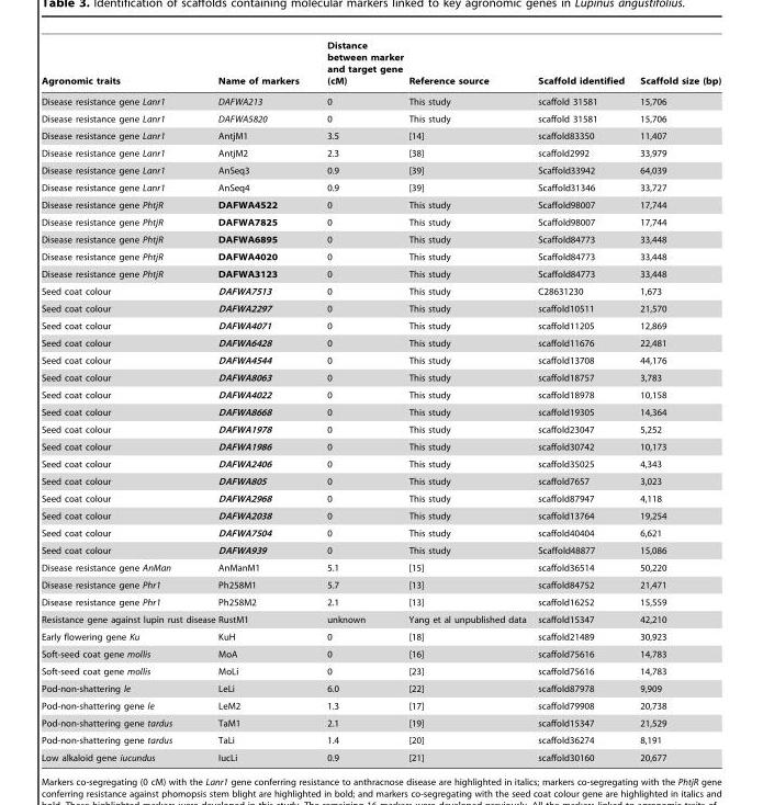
<table><thead><tr><td>Agronomic traits</td><td>Name of markers</td><td>Distance between marker and target gene (cM)</td><td>Reference source</td><td>Scaffold identified</td><td>Scaffold size (bp)</td></tr></thead><tbody><tr><td>Disease resistance gene Lanr1</td><td>DAFWA213</td><td>0</td><td>This study</td><td>scaffold 31581</td><td>15,706</td></tr><tr><td>Disease resistance gene Lanr1</td><td>DAFWA5820</td><td>0</td><td>This study</td><td>scaffold 31581</td><td>15,706</td></tr><tr><td>Disease resistance gene Lanr1</td><td>AntjM1</td><td>3.5</td><td>[14]</td><td>scaffold83350</td><td>11,407</td></tr><tr><td>Disease resistance gene Lanr1</td><td>AntjM2</td><td>2.3</td><td>[38]</td><td>scaffold2992</td><td>33,979</td></tr><tr><td>Disease resistance gene Lanr1</td><td>AnSeq3</td><td>0.9</td><td>[39]</td><td>Scaffold33942</td><td>64,039</td></tr><tr><td>Disease resistance gene Lanr1</td><td>AnSeq4</td><td>0.9</td><td>[39]</td><td>Scaffold31346</td><td>33,727</td></tr><tr><td>Disease resistance gene PhtjR</td><td>DAFWA4522</td><td>0</td><td>This study</td><td>Scaffold98007</td><td>17,744</td></tr><tr><td>Disease resistance gene PhtjR</td><td>DAFWA7825</td><td>0</td><td>This study</td><td>Scaffold98007</td><td>17,744</td></tr><tr><td>Disease resistance gene PhtjR</td><td>DAFWA6895</td><td>0</td><td>This study</td><td>Scaffold84773</td><td>33,448</td></tr><tr><td>Disease resistance gene PhtjR</td><td>DAFWA4020</td><td>0</td><td>This study</td><td>Scaffold84773</td><td>33,448</td></tr><tr><td>Disease resistance gene PhtjR</td><td>DAFWA3123</td><td>0</td><td>This study</td><td>Scaffold84773</td><td>33,448</td></tr><tr><td>Seed coat colour</td><td>DAFWA7513</td><td>0</td><td>This study</td><td>C28631230</td><td>1,673</td></tr><tr><td>Seed coat colour</td><td>DAFWA2297</td><td>0</td><td>This study</td><td>scaffold10511</td><td>21,570</td></tr><tr><td>Seed coat colour</td><td>DAFWA4071</td><td>0</td><td>This study</td><td>scaffold11205</td><td>12,869</td></tr><tr><td>Seed coat colour</td><td>DAFWA6428</td><td>0</td><td>This study</td><td>scaffold11676</td><td>22,481</td></tr><tr><td>Seed coat colour</td><td>DAFWA4544</td><td>0</td><td>This study</td><td>scaffold13708</td><td>44,176</td></tr><tr><td>Seed coat colour</td><td>DAFWA8063</td><td>0</td><td>This study</td><td>scaffold18757</td><td>3,783</td></tr><tr><td>Seed coat colour</td><td>DAFWA4022</td><td>0</td><td>This study</td><td>scaffold18978</td><td>10,158</td></tr><tr><td>Seed coat colour</td><td>DAFWA8668</td><td>0</td><td>This study</td><td>scaffold19305</td><td>14,364</td></tr><tr><td>Seed coat colour</td><td>DAFWA1978</td><td>0</td><td>This study</td><td>scaffold23047</td><td>5,252</td></tr><tr><td>Seed coat colour</td><td>DAFWA1986</td><td>0</td><td>This study</td><td>scaffold30742</td><td>10,173</td></tr><tr><td>Seed coat colour</td><td>DAFWA2406</td><td>0</td><td>This study</td><td>scaffold35025</td><td>4,343</td></tr><tr><td>Seed coat colour</td><td>DAFWA805</td><td>0</td><td>This study</td><td>scaffold7657</td><td>3,023</td></tr><tr><td>Seed coat colour</td><td>DAFWA2968</td><td>0</td><td>This study</td><td>scaffold87947</td><td>4,118</td></tr><tr><td>Seed coat colour</td><td>DAFWA2038</td><td>0</td><td>This study</td><td>scaffold13764</td><td>19,254</td></tr><tr><td>Seed coat colour</td><td>DAFWA7504</td><td>0</td><td>This study</td><td>scaffold40404</td><td>6,621</td></tr><tr><td>Seed coat colour</td><td>DAFWA939</td><td>0</td><td>This study</td><td>Scaffold48877</td><td>15,086</td></tr><tr><td>Disease resistance gene AnMan</td><td>AnManM1</td><td>5.1</td><td>[15]</td><td>scaffold36514</td><td>50,220</td></tr><tr><td>Disease resistance gene Phr1</td><td>Ph258M1</td><td>5.7</td><td>[13]</td><td>scaffold84752</td><td>21,471</td></tr><tr><td>Disease resistance gene Phr1</td><td>Ph258M2</td><td>2.1</td><td>[13]</td><td>scaffold16252</td><td>15,559</td></tr><tr><td>Resistance gene against lupin rust disease</td><td>RustM1</td><td>unknown</td><td>Yang et al unpublished data</td><td>scaffold15347</td><td>42,210</td></tr><tr><td>Early flowering gene Ku</td><td>KuH</td><td>0</td><td>[18]</td><td>scaffold21489</td><td>30,923</td></tr><tr><td>Soft-seed coat gene mollis</td><td>MoA</td><td>0</td><td>[16]</td><td>scaffold75616</td><td>14,783</td></tr><tr><td>Soft-seed coat gene mollis</td><td>MoLi</td><td>0</td><td>[23]</td><td>scaffold75616</td><td>14,783</td></tr><tr><td>Pod-non-shattering le</td><td>LeLi</td><td>6.0</td><td>[22]</td><td>scaffold87978</td><td>9,909</td></tr><tr><td>Pod-non-shattering gene le</td><td>LeM2</td><td>1.3</td><td>[17]</td><td>scaffold79908</td><td>20,738</td></tr><tr><td>Pod-non-shattering gene tardus</td><td>TaM1</td><td>2.1</td><td>[19]</td><td>scaffold15347</td><td>21,529</td></tr><tr><td>Pod-non-shattering gene tardus</td><td>TaLi</td><td>1.4</td><td>[20]</td><td>scaffold36274</td><td>8,191</td></tr><tr><td>Low alkaloid gene iucundus</td><td>IucLi</td><td>0.9</td><td>[21]</td><td>scaffold30160</td><td>20,677</td></tr></tbody></table>